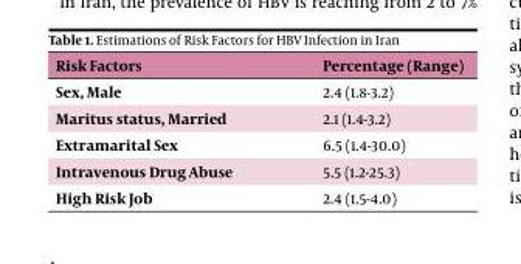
<table><thead><tr><td>Risk Factors</td><td>Percentage (Range)</td></tr></thead><tbody><tr><td>Sex, Male</td><td>2.4 (1.8-3.2)</td></tr><tr><td>Maritus status, Married</td><td>2.1 (1.4-3.2)</td></tr><tr><td>Extramarital Sex</td><td>6.5 (1.4-30.0)</td></tr><tr><td>Intravenous Drug Abuse</td><td>5.5 (1.2-25.3)</td></tr><tr><td>High Risk Job</td><td>2.4 (1.5-4.0)</td></tr></tbody></table>